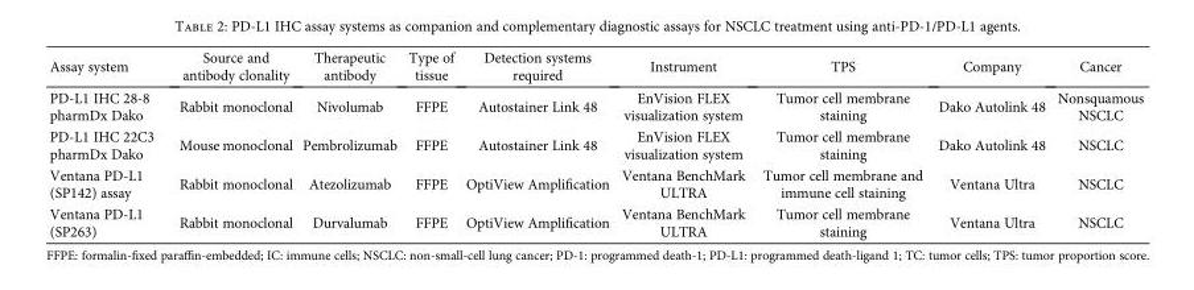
<table><thead><tr><td>Assay system</td><td>Source and antibody clonality</td><td>Therapeutic antibody</td><td>Type of tissue</td><td>Detection systems required</td><td>Instrument</td><td>TPS</td><td>Company</td><td>Cancer</td></tr></thead><tbody><tr><td>PD-L1 IHC 28-8 pharmDx Dako</td><td>Rabbit monoclonal</td><td>Nivolumab</td><td>FFPE</td><td>Autostainer Link 48</td><td>EnVision FLEX visualization system</td><td>Tumor cell membrane staining</td><td>Dako Autolink 48</td><td>Nonsquamous NSCLC</td></tr><tr><td>PD-L1 IHC 22C3 pharmDx Dako</td><td>Mouse monoclonal</td><td>Pembrolizumab</td><td>FFPE</td><td>Autostainer Link 48</td><td>EnVision FLEX visualization system</td><td>Tumor cell membrane staining</td><td>Dako Autolink 48</td><td>NSCLC</td></tr><tr><td>Ventana PD-L1 (SP142) assay</td><td>Rabbit monoclonal</td><td>Atezolizumab</td><td>FFPE</td><td>OptiView Amplification</td><td>Ventana BenchMark ULTRA</td><td>Tumor cell membrane and immune cell staining</td><td>Ventana Ultra</td><td>NSCLC</td></tr><tr><td>Ventana PD-L1 (SP263)</td><td>Rabbit monoclonal</td><td>Durvalumab</td><td>FFPE</td><td>OptiView Amplification</td><td>Ventana BenchMark ULTRA</td><td>Tumor cell membrane staining</td><td>Ventana Ultra</td><td>NSCLC</td></tr></tbody></table>